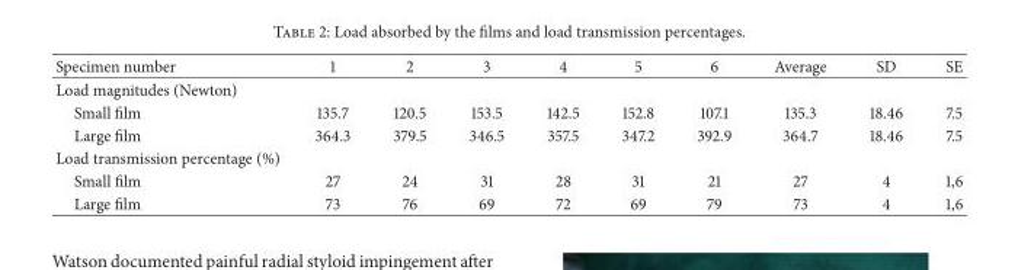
<table><thead><tr><td>Specimen number</td><td>1</td><td>2</td><td>3</td><td>4</td><td>5</td><td>6</td><td>Average</td><td>SD</td><td>SE</td></tr></thead><tbody><tr><td colspan="10">Load magnitudes (Newton)</td></tr><tr><td>Small film</td><td>135.7</td><td>120.5</td><td>153.5</td><td>142.5</td><td>152.8</td><td>107.1</td><td>135.3</td><td>18.46</td><td>7.5</td></tr><tr><td>Large film</td><td>364.3</td><td>379.5</td><td>346.5</td><td>357.5</td><td>347.2</td><td>392.9</td><td>364.7</td><td>18.46</td><td>7.5</td></tr><tr><td colspan="10">Load transmission percentage (%)</td></tr><tr><td>Small film</td><td>27</td><td>24</td><td>31</td><td>28</td><td>31</td><td>21</td><td>27</td><td>4</td><td>1,6</td></tr><tr><td>Large film</td><td>73</td><td>76</td><td>69</td><td>72</td><td>69</td><td>79</td><td>73</td><td>4</td><td>1,6</td></tr></tbody></table>